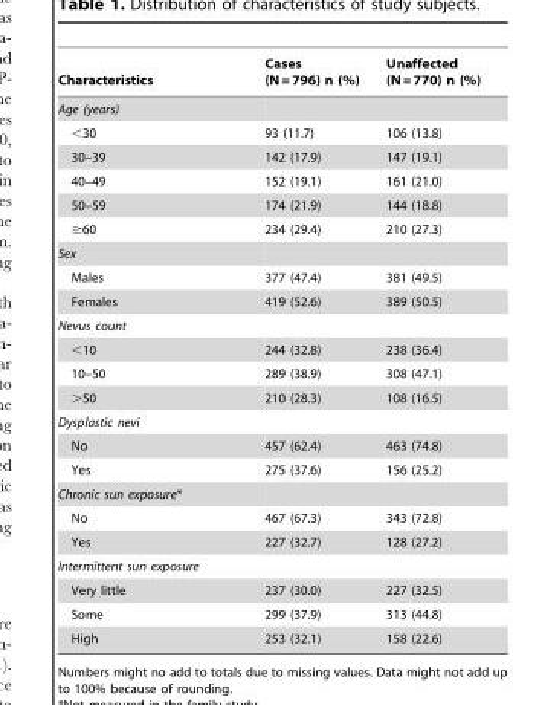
<table><thead><tr><td>Characteristics</td><td>Cases (N = 796) n (%)</td><td>Unaffected (N = 770) n (%)</td></tr></thead><tbody><tr><td colspan="3">Age (years)</td></tr><tr><td>&lt;30</td><td>93 (11.7)</td><td>106 (13.8)</td></tr><tr><td>30–39</td><td>142 (17.9)</td><td>147 (19.1)</td></tr><tr><td>40–49</td><td>152 (19.1)</td><td>161 (21.0)</td></tr><tr><td>50–59</td><td>174 (21.9)</td><td>144 (18.8)</td></tr><tr><td>≥60</td><td>234 (29.4)</td><td>210 (27.3)</td></tr><tr><td colspan="3">Sex</td></tr><tr><td>Males</td><td>377 (47.4)</td><td>381 (49.5)</td></tr><tr><td>Females</td><td>419 (52.6)</td><td>389 (50.5)</td></tr><tr><td colspan="3">Nevus count</td></tr><tr><td>&lt;10</td><td>244 (32.8)</td><td>238 (36.4)</td></tr><tr><td>10–50</td><td>289 (38.9)</td><td>308 (47.1)</td></tr><tr><td>&gt;50</td><td>210 (28.3)</td><td>108 (16.5)</td></tr><tr><td colspan="3">Dysplastic nevi</td></tr><tr><td>No</td><td>457 (62.4)</td><td>463 (74.8)</td></tr><tr><td>Yes</td><td>275 (37.6)</td><td>156 (25.2)</td></tr><tr><td colspan="3">Chronic sun exposure*</td></tr><tr><td>No</td><td>467 (67.3)</td><td>343 (72.8)</td></tr><tr><td>Yes</td><td>227 (32.7)</td><td>128 (27.2)</td></tr><tr><td colspan="3">Intermittent sun exposure</td></tr><tr><td>Very little</td><td>237 (30.0)</td><td>227 (32.5)</td></tr><tr><td>Some</td><td>299 (37.9)</td><td>313 (44.8)</td></tr><tr><td>High</td><td>253 (32.1)</td><td>158 (22.6)</td></tr></tbody></table>